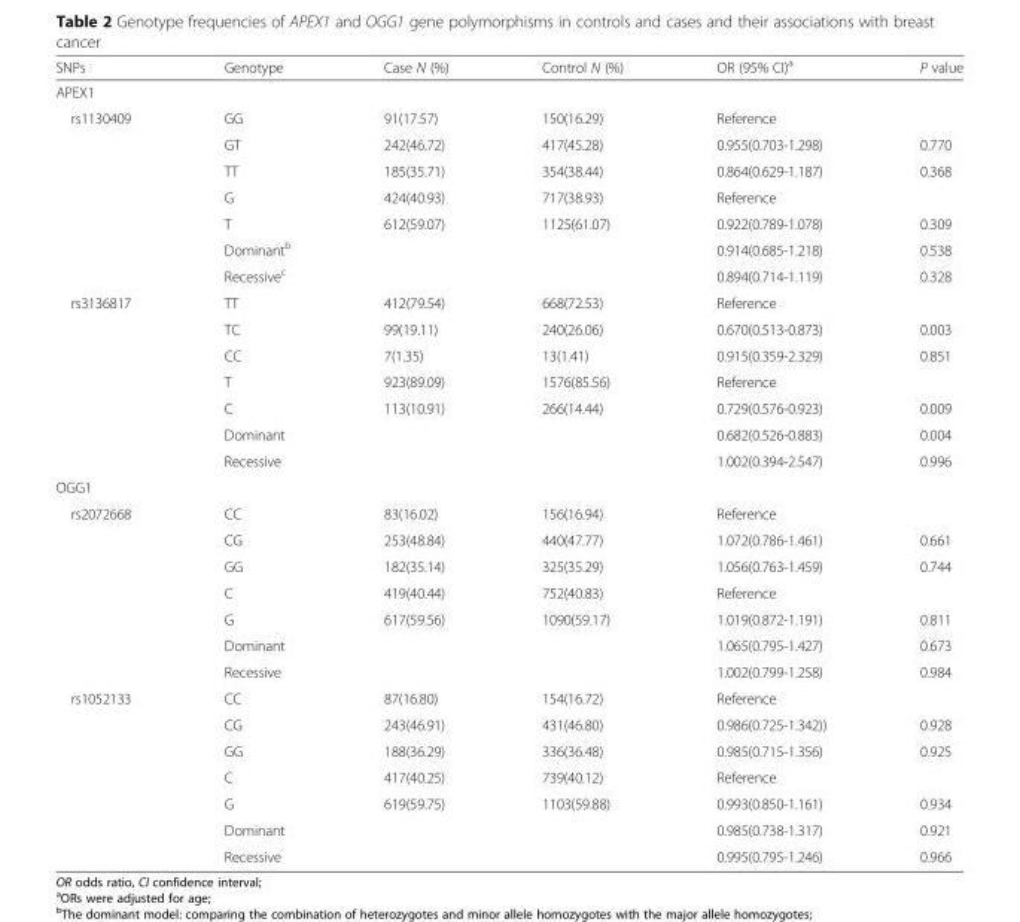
<table><thead><tr><td>SNPs</td><td>Genotype</td><td>Case N (%)</td><td>Control N (%)</td><td>OR (95% CI)<sup>a</sup></td><td>P value</td></tr></thead><tbody><tr><td colspan="6">APEX1</td></tr><tr><td rowspan="7">rs1130409</td><td>GG</td><td>91(17.57)</td><td>150(16.29)</td><td>Reference</td><td></td></tr><tr><td>GT</td><td>242(46.72)</td><td>417(45.28)</td><td>0.955(0.703-1.298)</td><td>0.770</td></tr><tr><td>TT</td><td>185(35.71)</td><td>354(38.44)</td><td>0.864(0.629-1.187)</td><td>0.368</td></tr><tr><td>G</td><td>424(40.93)</td><td>717(38.93)</td><td>Reference</td><td></td></tr><tr><td>T</td><td>612(59.07)</td><td>1125(61.07)</td><td>0.922(0.789-1.078)</td><td>0.309</td></tr><tr><td>Dominant<sup>b</sup></td><td></td><td></td><td>0.914(0.685-1.218)</td><td>0.538</td></tr><tr><td>Recessive<sup>c</sup></td><td></td><td></td><td>0.894(0.714-1.119)</td><td>0.328</td></tr><tr><td rowspan="7">rs3136817</td><td>TT</td><td>412(79.54)</td><td>668(72.53)</td><td>Reference</td><td></td></tr><tr><td>TC</td><td>99(19.11)</td><td>240(26.06)</td><td>0.670(0.513-0.873)</td><td>0.003</td></tr><tr><td>CC</td><td>7(1.35)</td><td>13(1.41)</td><td>0.915(0.359-2.329)</td><td>0.851</td></tr><tr><td>T</td><td>923(89.09)</td><td>1576(85.56)</td><td>Reference</td><td></td></tr><tr><td>C</td><td>113(10.91)</td><td>266(14.44)</td><td>0.729(0.576-0.923)</td><td>0.009</td></tr><tr><td>Dominant</td><td></td><td></td><td>0.682(0.526-0.883)</td><td>0.004</td></tr><tr><td>Recessive</td><td></td><td></td><td>1.002(0.394-2.547)</td><td>0.996</td></tr><tr><td colspan="6">OGG1</td></tr><tr><td rowspan="7">rs2072668</td><td>CC</td><td>83(16.02)</td><td>156(16.94)</td><td>Reference</td><td></td></tr><tr><td>CG</td><td>253(48.84)</td><td>440(47.77)</td><td>1.072(0.786-1.461)</td><td>0.661</td></tr><tr><td>GG</td><td>182(35.14)</td><td>325(35.29)</td><td>1.056(0.763-1.459)</td><td>0.744</td></tr><tr><td>C</td><td>419(40.44)</td><td>752(40.83)</td><td>Reference</td><td></td></tr><tr><td>G</td><td>617(59.56)</td><td>1090(59.17)</td><td>1.019(0.872-1.191)</td><td>0.811</td></tr><tr><td>Dominant</td><td></td><td></td><td>1.065(0.795-1.427)</td><td>0.673</td></tr><tr><td>Recessive</td><td></td><td></td><td>1.002(0.799-1.258)</td><td>0.984</td></tr><tr><td rowspan="7">rs1052133</td><td>CC</td><td>87(16.80)</td><td>154(16.72)</td><td>Reference</td><td></td></tr><tr><td>CG</td><td>243(46.91)</td><td>431(46.80)</td><td>0.986(0.725-1.342))</td><td>0.928</td></tr><tr><td>GG</td><td>188(36.29)</td><td>336(36.48)</td><td>0.985(0.715-1.356)</td><td>0.925</td></tr><tr><td>C</td><td>417(40.25)</td><td>739(40.12)</td><td>Reference</td><td></td></tr><tr><td>G</td><td>619(59.75)</td><td>1103(59.88)</td><td>0.993(0.850-1.161)</td><td>0.934</td></tr><tr><td>Dominant</td><td></td><td></td><td>0.985(0.738-1.317)</td><td>0.921</td></tr><tr><td>Recessive</td><td></td><td></td><td>0.995(0.795-1.246)</td><td>0.966</td></tr></tbody></table>